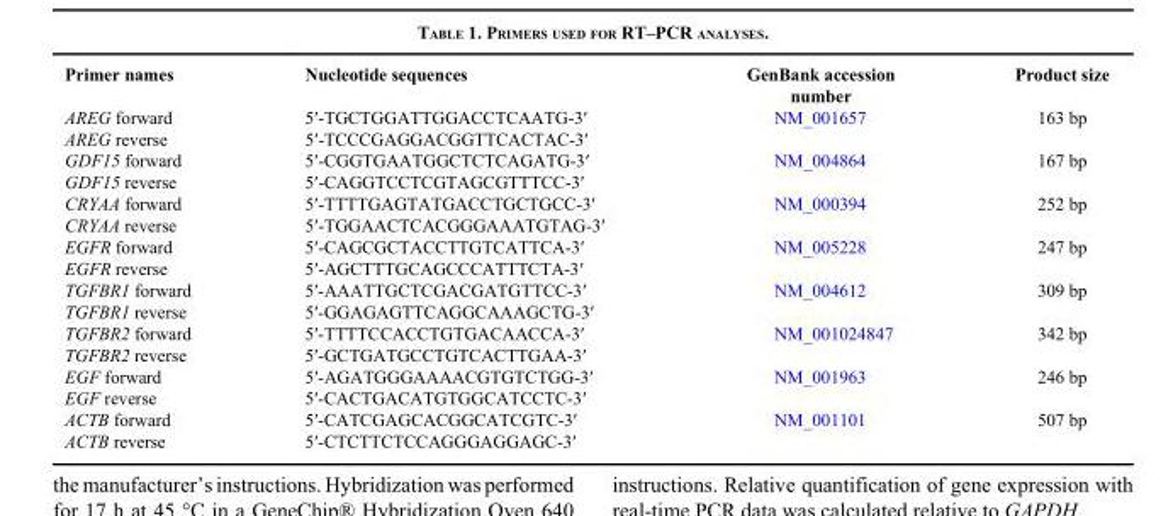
<table><thead><tr><td>Primer names</td><td>Nucleotide sequences</td><td>GenBank accession number</td><td>Product size</td></tr></thead><tbody><tr><td>AREG forward</td><td>5′-TGCTGGATTGGACCTCAATG-3′</td><td>NM_001657</td><td>163 bp</td></tr><tr><td>AREG reverse</td><td>5′-TCCCGAGGACGGTTCACTAC-3′</td><td></td><td></td></tr><tr><td>GDF15 forward</td><td>5′-CGGTGAATGGCTCTCAGATG-3′</td><td>NM_004864</td><td>167 bp</td></tr><tr><td>GDF15 reverse</td><td>5′-CAGGTCCTCGTAGCGTTTCC-3′</td><td></td><td></td></tr><tr><td>CRYAA forward</td><td>5′-TTTTGAGTATGACCTGCTGCC-3′</td><td>NM_000394</td><td>252 bp</td></tr><tr><td>CRYAA reverse</td><td>5′-TGGAACTCACGGGAAATGTAG-3′</td><td></td><td></td></tr><tr><td>EGFR forward</td><td>5′-CAGCGCTACCTTGTCATTCA-3′</td><td>NM_005228</td><td>247 bp</td></tr><tr><td>EGFR reverse</td><td>5′-AGCTTTGCAGCCCATTTCTA-3′</td><td></td><td></td></tr><tr><td>TGFBR1 forward</td><td>5′-AAATTGCTCGACGATGTTCC-3′</td><td>NM_004612</td><td>309 bp</td></tr><tr><td>TGFBR1 reverse</td><td>5′-GGAGAGTTCAGGCAAAGCTG-3′</td><td></td><td></td></tr><tr><td>TGFBR2 forward</td><td>5′-TTTTCCACCTGTGACAACCA-3′</td><td>NM_001024847</td><td>342 bp</td></tr><tr><td>TGFBR2 reverse</td><td>5′-GCTGATGCCTGTCACTTGAA-3′</td><td></td><td></td></tr><tr><td>EGF forward</td><td>5′-AGATGGGAAAACGTGTCTGG-3′</td><td>NM_001963</td><td>246 bp</td></tr><tr><td>EGF reverse</td><td>5′-CACTGACATGTGGCATCCTC-3′</td><td></td><td></td></tr><tr><td>ACTB forward</td><td>5′-CATCGAGCACGGCATCGTC-3′</td><td>NM_001101</td><td>507 bp</td></tr><tr><td>ACTB reverse</td><td>5′-CTCTTCTCCAGGGAGGAGC-3′</td><td></td><td></td></tr></tbody></table>